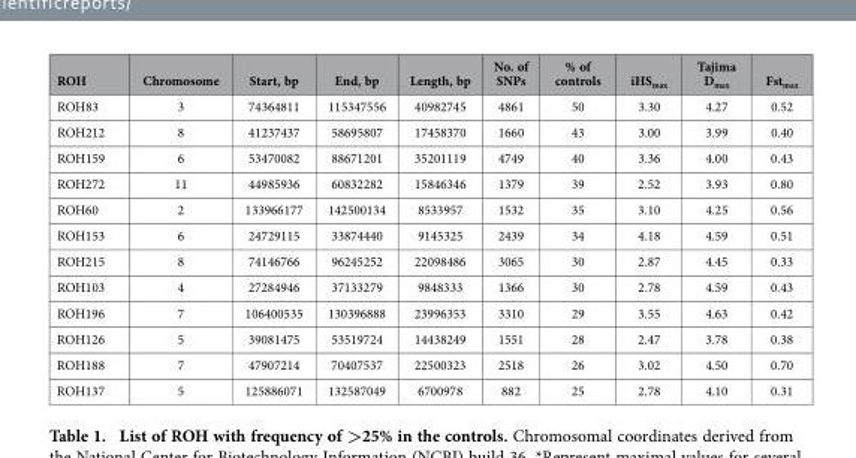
<table><thead><tr><td>ROH</td><td>Chromosome</td><td>Start, bp</td><td>End, bp</td><td>Length, bp</td><td>No. of SNPs</td><td>% of controls</td><td>iHS<sub>max</sub></td><td>Tajima D<sub>max</sub></td><td>Fst<sub>max</sub></td></tr></thead><tbody><tr><td>ROH83</td><td>3</td><td>74364811</td><td>115347556</td><td>40982745</td><td>4861</td><td>50</td><td>3.30</td><td>4.27</td><td>0.52</td></tr><tr><td>ROH212</td><td>8</td><td>41237437</td><td>58695807</td><td>17458370</td><td>1660</td><td>43</td><td>3.00</td><td>3.99</td><td>0.40</td></tr><tr><td>ROH159</td><td>6</td><td>53470082</td><td>88671201</td><td>35201119</td><td>4749</td><td>40</td><td>3.36</td><td>4.00</td><td>0.43</td></tr><tr><td>ROH272</td><td>11</td><td>44985936</td><td>60832282</td><td>15846346</td><td>1379</td><td>39</td><td>2.52</td><td>3.93</td><td>0.80</td></tr><tr><td>ROH60</td><td>2</td><td>133966177</td><td>142500134</td><td>8533957</td><td>1532</td><td>35</td><td>3.10</td><td>4.25</td><td>0.56</td></tr><tr><td>ROH153</td><td>6</td><td>24729115</td><td>33874440</td><td>9145325</td><td>2439</td><td>34</td><td>4.18</td><td>4.59</td><td>0.51</td></tr><tr><td>ROH215</td><td>8</td><td>74146766</td><td>96245252</td><td>22098486</td><td>3065</td><td>30</td><td>2.87</td><td>4.45</td><td>0.33</td></tr><tr><td>ROH103</td><td>4</td><td>27284946</td><td>37133279</td><td>9848333</td><td>1366</td><td>30</td><td>2.78</td><td>4.59</td><td>0.43</td></tr><tr><td>ROH196</td><td>7</td><td>106400535</td><td>130396888</td><td>23996353</td><td>3310</td><td>29</td><td>3.55</td><td>4.63</td><td>0.42</td></tr><tr><td>ROH126</td><td>5</td><td>39081475</td><td>53519724</td><td>14438249</td><td>1551</td><td>28</td><td>2.47</td><td>3.78</td><td>0.38</td></tr><tr><td>ROH188</td><td>7</td><td>47907214</td><td>70407537</td><td>22500323</td><td>2518</td><td>26</td><td>3.02</td><td>4.50</td><td>0.70</td></tr><tr><td>ROH137</td><td>5</td><td>125886071</td><td>132587049</td><td>6700978</td><td>882</td><td>25</td><td>2.78</td><td>4.10</td><td>0.31</td></tr></tbody></table>